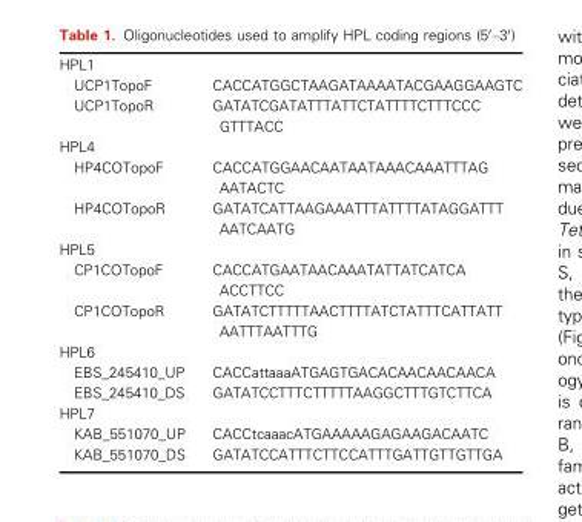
<table><tbody><tr><td colspan="2">HPL1</td></tr><tr><td>UCP1TopoF</td><td>CACCATGGCTAAGATAAAATACGAAGGAAGTC</td></tr><tr><td>UCP1TopoR</td><td>GATATCGATATTTATTCTATTTTCTTTCCC GTTTACC</td></tr><tr><td colspan="2">HPL4</td></tr><tr><td>HP4COTopoF</td><td>CACCATGGAACAATAATAAACAAATTTAG AATACTC</td></tr><tr><td>HP4COTopoR</td><td>GATATCATTAAGAAATTTATTTTATAGGATTT AATCAATG</td></tr><tr><td colspan="2">HPL5</td></tr><tr><td>CP1COTopoF</td><td>CACCATGAATAACAAATATTATCATCA ACCTTCC</td></tr><tr><td>CP1COTopoR</td><td>GATATCTTTTTAACTTTTATCTATTTCATTATT AATTTAATTTG</td></tr><tr><td colspan="2">HPL6</td></tr><tr><td>EBS_245410_UP</td><td>CACCattaaaATGAGTGACACAACAACAACA</td></tr><tr><td>EBS_245410_DS</td><td>GATATCCTTTCTTTTTAAGGCTTTGTCTTCA</td></tr><tr><td colspan="2">HPL7</td></tr><tr><td>KAB_551070_UP</td><td>CACCtcaaacATGAAAAAGAGAAGACAATC</td></tr><tr><td>KAB_551070_DS</td><td>GATATCCATTTCTTCCATTTGATTGTTGTTGA</td></tr></tbody></table>